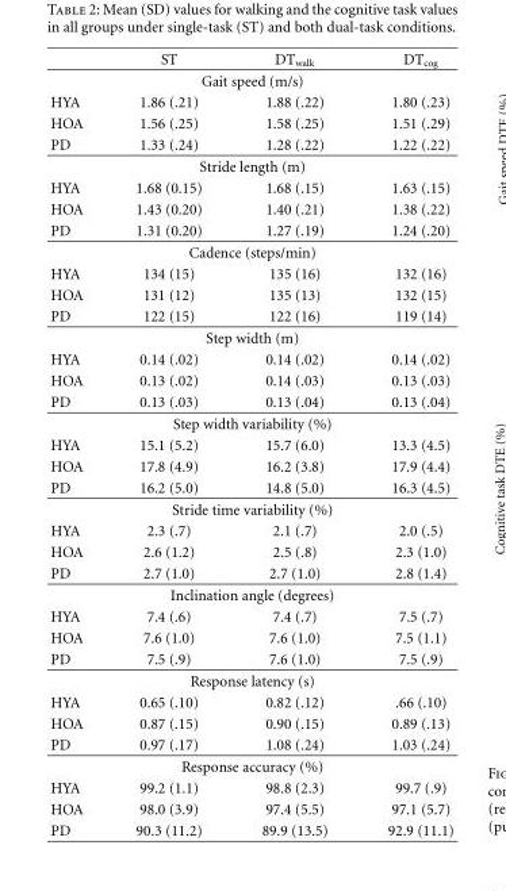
<table><thead><tr><td></td><td>ST</td><td>DT<sub>walk</sub></td><td>DT<sub>cog</sub></td></tr></thead><tbody><tr><td colspan="4">Gait speed (m/s)</td></tr><tr><td>HYA</td><td>1.86 (.21)</td><td>1.88 (.22)</td><td>1.80 (.23)</td></tr><tr><td>HOA</td><td>1.56 (.25)</td><td>1.58 (.25)</td><td>1.51 (.29)</td></tr><tr><td>PD</td><td>1.33 (.24)</td><td>1.28 (.22)</td><td>1.22 (.22)</td></tr><tr><td colspan="4">Stride length (m)</td></tr><tr><td>HYA</td><td>1.68 (0.15)</td><td>1.68 (.15)</td><td>1.63 (.15)</td></tr><tr><td>HOA</td><td>1.43 (0.20)</td><td>1.40 (.21)</td><td>1.38 (.22)</td></tr><tr><td>PD</td><td>1.31 (0.20)</td><td>1.27 (.19)</td><td>1.24 (.20)</td></tr><tr><td colspan="4">Cadence (steps/min)</td></tr><tr><td>HYA</td><td>134 (15)</td><td>135 (16)</td><td>132 (16)</td></tr><tr><td>HOA</td><td>131 (12)</td><td>135 (13)</td><td>132 (15)</td></tr><tr><td>PD</td><td>122 (15)</td><td>122 (16)</td><td>119 (14)</td></tr><tr><td colspan="4">Step width (m)</td></tr><tr><td>HYA</td><td>0.14 (.02)</td><td>0.14 (.02)</td><td>0.14 (.02)</td></tr><tr><td>HOA</td><td>0.13 (.02)</td><td>0.14 (.03)</td><td>0.13 (.03)</td></tr><tr><td>PD</td><td>0.13 (.03)</td><td>0.13 (.04)</td><td>0.13 (.04)</td></tr><tr><td colspan="4">Step width variability (%)</td></tr><tr><td>HYA</td><td>15.1 (5.2)</td><td>15.7 (6.0)</td><td>13.3 (4.5)</td></tr><tr><td>HOA</td><td>17.8 (4.9)</td><td>16.2 (3.8)</td><td>17.9 (4.4)</td></tr><tr><td>PD</td><td>16.2 (5.0)</td><td>14.8 (5.0)</td><td>16.3 (4.5)</td></tr><tr><td colspan="4">Stride time variability (%)</td></tr><tr><td>HYA</td><td>2.3 (.7)</td><td>2.1 (.7)</td><td>2.0 (.5)</td></tr><tr><td>HOA</td><td>2.6 (1.2)</td><td>2.5 (.8)</td><td>2.3 (1.0)</td></tr><tr><td>PD</td><td>2.7 (1.0)</td><td>2.7 (1.0)</td><td>2.8 (1.4)</td></tr><tr><td colspan="4">Inclination angle (degrees)</td></tr><tr><td>HYA</td><td>7.4 (.6)</td><td>7.4 (.7)</td><td>7.5 (.7)</td></tr><tr><td>HOA</td><td>7.6 (1.0)</td><td>7.6 (1.0)</td><td>7.5 (1.1)</td></tr><tr><td>PD</td><td>7.5 (.9)</td><td>7.6 (1.0)</td><td>7.5 (.9)</td></tr><tr><td colspan="4">Response latency (s)</td></tr><tr><td>HYA</td><td>0.65 (.10)</td><td>0.82 (.12)</td><td>.66 (.10)</td></tr><tr><td>HOA</td><td>0.87 (.15)</td><td>0.90 (.15)</td><td>0.89 (.13)</td></tr><tr><td>PD</td><td>0.97 (.17)</td><td>1.08 (.24)</td><td>1.03 (.24)</td></tr><tr><td colspan="4">Response accuracy (%)</td></tr><tr><td>HYA</td><td>99.2 (1.1)</td><td>98.8 (2.3)</td><td>99.7 (.9)</td></tr><tr><td>HOA</td><td>98.0 (3.9)</td><td>97.4 (5.5)</td><td>97.1 (5.7)</td></tr><tr><td>PD</td><td>90.3 (11.2)</td><td>89.9 (13.5)</td><td>92.9 (11.1)</td></tr></tbody></table>